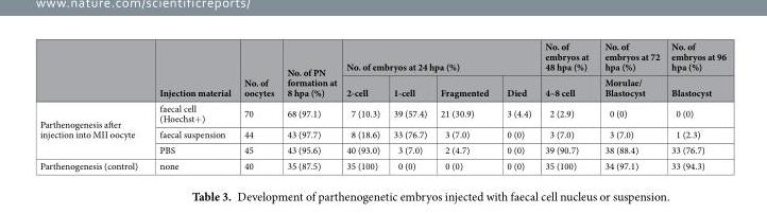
<table><thead><tr><td rowspan="2"></td><td rowspan="2">Injection material</td><td rowspan="2">No. of oocytes</td><td rowspan="2">No. of PN formation at 8 hpa (%)</td><td colspan="4">No. of embryos at 24 hpa (%)</td><td rowspan="2">No. of embryos at 48 hpa (%) 4–8 cell</td><td rowspan="2">No. of embryos at 72 hpa (%) Morulae/ Blastocyst</td><td rowspan="2">No. of embryos at 96 hpa (%) Blastocyst</td></tr><tr><td>2-cell</td><td>1-cell</td><td>Fragmented</td><td>Died</td></tr></thead><tbody><tr><td rowspan="3">Parthenogenesis after injection into MII oocyte</td><td>faecal cell (Hoechst+)</td><td>70</td><td>68 (97.1)</td><td>7 (10.3)</td><td>39 (57.4)</td><td>21 (30.9)</td><td>3 (4.4)</td><td>2 (2.9)</td><td>0 (0)</td><td>0 (0)</td></tr><tr><td>faecal suspension</td><td>44</td><td>43 (97.7)</td><td>8 (18.6)</td><td>33 (76.7)</td><td>3 (7.0)</td><td>0 (0)</td><td>3 (7.0)</td><td>3 (7.0)</td><td>1 (2.3)</td></tr><tr><td>PBS</td><td>45</td><td>43 (95.6)</td><td>40 (93.0)</td><td>3 (7.0)</td><td>2 (4.7)</td><td>0 (0)</td><td>39 (90.7)</td><td>38 (88.4)</td><td>33 (76.7)</td></tr><tr><td>Parthenogenesis (control)</td><td>none</td><td>40</td><td>35 (87.5)</td><td>35 (100)</td><td>0 (0)</td><td>0 (0)</td><td>0 (0)</td><td>35 (100)</td><td>34 (97.1)</td><td>33 (94.3)</td></tr></tbody></table>